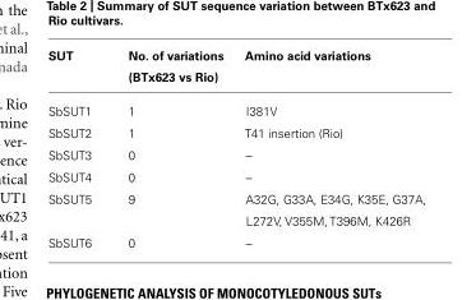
<table><thead><tr><td>SUT</td><td>No. of variations (BTx623 vs Rio)</td><td>Amino acid variations</td></tr></thead><tbody><tr><td>SbSUT1</td><td>1</td><td>I381V</td></tr><tr><td>SbSUT2</td><td>1</td><td>T41 insertion (Rio)</td></tr><tr><td>SbSUT3</td><td>0</td><td>–</td></tr><tr><td>SbSUT4</td><td>0</td><td>–</td></tr><tr><td>SbSUT5</td><td>9</td><td>A32G, G33A, E34G, K35E, G37A, L272V, V355M, T396M, K426R</td></tr><tr><td>SbSUT6</td><td>0</td><td>–</td></tr></tbody></table>